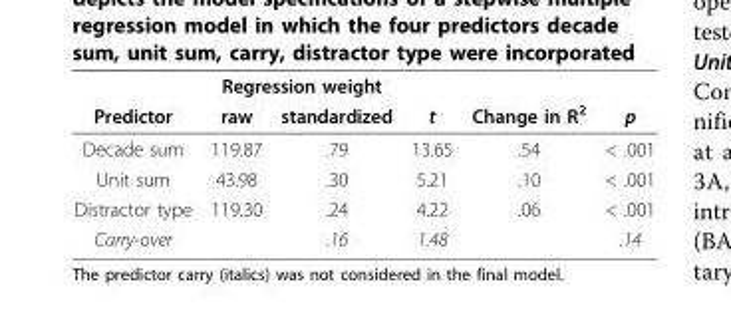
<table><thead><tr><td rowspan="2">Predictor</td><td colspan="2">Regression weight</td><td rowspan="2">t</td><td rowspan="2">Change in R<sup>2</sup></td><td rowspan="2">p</td></tr><tr><td>raw</td><td>standardized</td></tr></thead><tbody><tr><td>Decade sum</td><td>119.87</td><td>.79</td><td>13.65</td><td>.54</td><td>&lt; .001</td></tr><tr><td>Unit sum</td><td>43.98</td><td>.30</td><td>5.21</td><td>.10</td><td>&lt; .001</td></tr><tr><td>Distractor type</td><td>119.30</td><td>.24</td><td>4.22</td><td>.06</td><td>&lt; .001</td></tr><tr><td>Carry-over</td><td></td><td>.16</td><td>1.48</td><td></td><td>.14</td></tr></tbody></table>